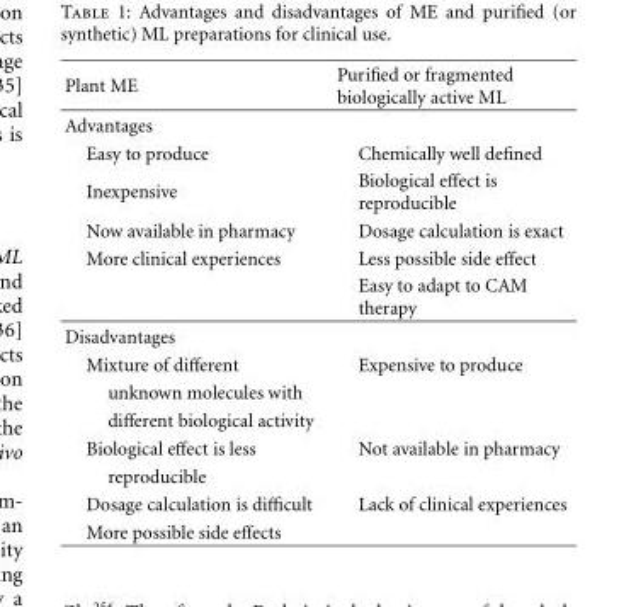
<table><thead><tr><td>Plant ME</td><td>Purified or fragmented biologically active ML</td></tr></thead><tbody><tr><td colspan="2">Advantages</td></tr><tr><td>Easy to produce</td><td>Chemically well defined</td></tr><tr><td>Inexpensive</td><td>Biological effect is reproducible</td></tr><tr><td>Now available in pharmacy</td><td>Dosage calculation is exact</td></tr><tr><td rowspan="2">More clinical experiences</td><td>Less possible side effect</td></tr><tr><td>Easy to adapt to CAM therapy</td></tr><tr><td colspan="2">Disadvantages</td></tr><tr><td>Mixture of different</td><td>Expensive to produce</td></tr><tr><td colspan="2">unknown molecules with</td></tr><tr><td colspan="2">different biological activity</td></tr><tr><td>Biological effect is less</td><td>Not available in pharmacy</td></tr><tr><td colspan="2">reproducible</td></tr><tr><td>Dosage calculation is difficult</td><td>Lack of clinical experiences</td></tr><tr><td>More possible side effects</td><td></td></tr></tbody></table>